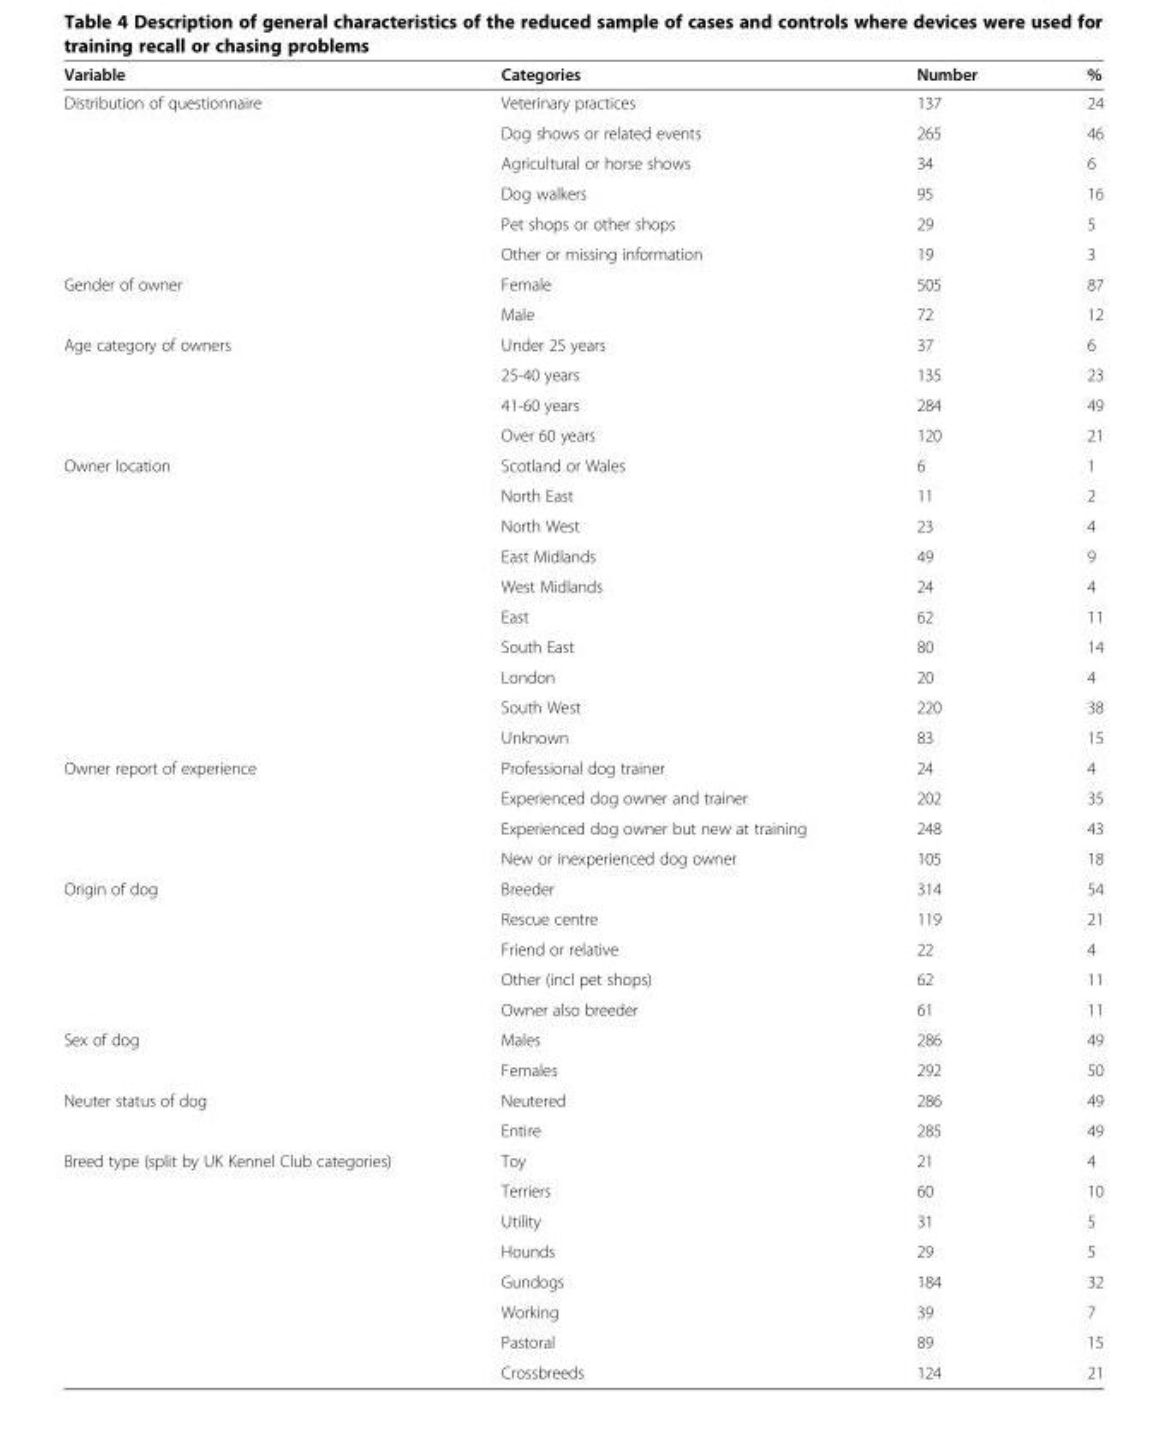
<table><thead><tr><td>Variable</td><td>Categories</td><td>Number</td><td>%</td></tr></thead><tbody><tr><td rowspan="6">Distribution of questionnaire</td><td>Veterinary practices</td><td>137</td><td>24</td></tr><tr><td>Dog shows or related events</td><td>265</td><td>46</td></tr><tr><td>Agricultural or horse shows</td><td>34</td><td>6</td></tr><tr><td>Dog walkers</td><td>95</td><td>16</td></tr><tr><td>Pet shops or other shops</td><td>29</td><td>5</td></tr><tr><td>Other or missing information</td><td>19</td><td>3</td></tr><tr><td rowspan="2">Gender of owner</td><td>Female</td><td>505</td><td>87</td></tr><tr><td>Male</td><td>72</td><td>12</td></tr><tr><td rowspan="4">Age category of owners</td><td>Under 25 years</td><td>37</td><td>6</td></tr><tr><td>25-40 years</td><td>135</td><td>23</td></tr><tr><td>41-60 years</td><td>284</td><td>49</td></tr><tr><td>Over 60 years</td><td>120</td><td>21</td></tr><tr><td rowspan="10">Owner location</td><td>Scotland or Wales</td><td>6</td><td>1</td></tr><tr><td>North East</td><td>11</td><td>2</td></tr><tr><td>North West</td><td>23</td><td>4</td></tr><tr><td>East Midlands</td><td>49</td><td>9</td></tr><tr><td>West Midlands</td><td>24</td><td>4</td></tr><tr><td>East</td><td>62</td><td>11</td></tr><tr><td>South East</td><td>80</td><td>14</td></tr><tr><td>London</td><td>20</td><td>4</td></tr><tr><td>South West</td><td>220</td><td>38</td></tr><tr><td>Unknown</td><td>83</td><td>15</td></tr><tr><td rowspan="4">Owner report of experience</td><td>Professional dog trainer</td><td>24</td><td>4</td></tr><tr><td>Experienced dog owner and trainer</td><td>202</td><td>35</td></tr><tr><td>Experienced dog owner but new at training</td><td>248</td><td>43</td></tr><tr><td>New or inexperienced dog owner</td><td>105</td><td>18</td></tr><tr><td rowspan="5">Origin of dog</td><td>Breeder</td><td>314</td><td>54</td></tr><tr><td>Rescue centre</td><td>119</td><td>21</td></tr><tr><td>Friend or relative</td><td>22</td><td>4</td></tr><tr><td>Other (incl pet shops)</td><td>62</td><td>11</td></tr><tr><td>Owner also breeder</td><td>61</td><td>11</td></tr><tr><td rowspan="2">Sex of dog</td><td>Males</td><td>286</td><td>49</td></tr><tr><td>Females</td><td>292</td><td>50</td></tr><tr><td rowspan="2">Neuter status of dog</td><td>Neutered</td><td>286</td><td>49</td></tr><tr><td>Entire</td><td>285</td><td>49</td></tr><tr><td rowspan="8">Breed type (split by UK Kennel Club categories)</td><td>Toy</td><td>21</td><td>4</td></tr><tr><td>Terriers</td><td>60</td><td>10</td></tr><tr><td>Utility</td><td>31</td><td>5</td></tr><tr><td>Hounds</td><td>29</td><td>5</td></tr><tr><td>Gundogs</td><td>184</td><td>32</td></tr><tr><td>Working</td><td>39</td><td>7</td></tr><tr><td>Pastoral</td><td>89</td><td>15</td></tr><tr><td>Crossbreeds</td><td>124</td><td>21</td></tr></tbody></table>